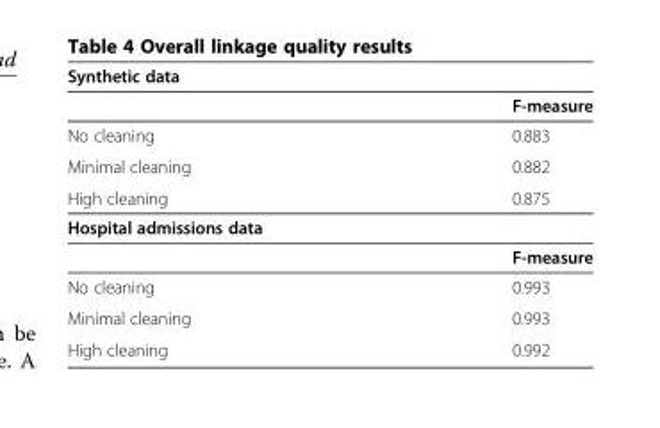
<table><tbody><tr><td colspan="2">Synthetic data</td></tr><tr><td></td><td>F-measure</td></tr><tr><td>No cleaning</td><td>0.883</td></tr><tr><td>Minimal cleaning</td><td>0.882</td></tr><tr><td>High cleaning</td><td>0.875</td></tr><tr><td colspan="2">Hospital admissions data</td></tr><tr><td></td><td>F-measure</td></tr><tr><td>No cleaning</td><td>0.993</td></tr><tr><td>Minimal cleaning</td><td>0.993</td></tr><tr><td>High cleaning</td><td>0.992</td></tr></tbody></table>